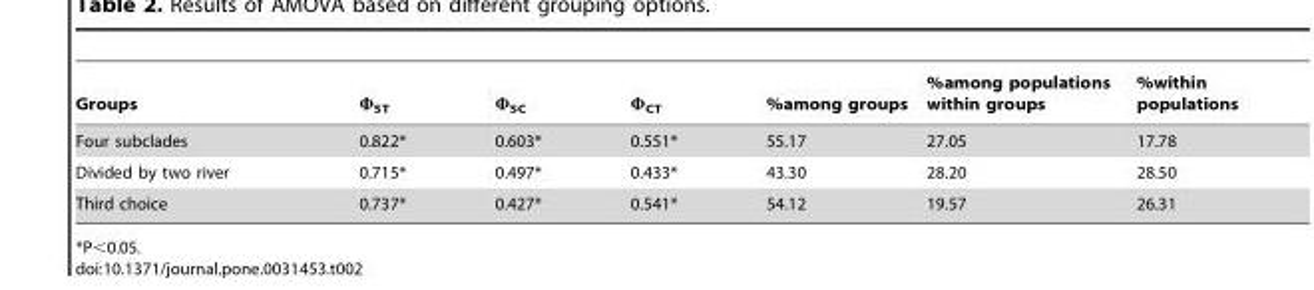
<table><thead><tr><td>Groups</td><td>Φ<sub>ST</sub></td><td>Φ<sub>SC</sub></td><td>Φ<sub>CT</sub></td><td>%among groups</td><td>%among populations within groups</td><td>%within populations</td></tr></thead><tbody><tr><td>Four subclades</td><td>0.822*</td><td>0.603*</td><td>0.551*</td><td>55.17</td><td>27.05</td><td>17.78</td></tr><tr><td>Divided by two river</td><td>0.715*</td><td>0.497*</td><td>0.433*</td><td>43.30</td><td>28.20</td><td>28.50</td></tr><tr><td>Third choice</td><td>0.737*</td><td>0.427*</td><td>0.541*</td><td>54.12</td><td>19.57</td><td>26.31</td></tr></tbody></table>